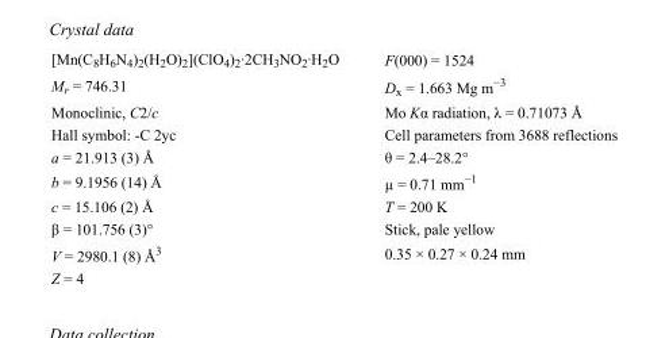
<table><tbody><tr><td>[Mn(C<sub>8</sub>H<sub>6</sub>N<sub>4</sub>)<sub>2</sub>(H<sub>2</sub>O)<sub>2</sub>](ClO<sub>4</sub>)<sub>2</sub>·2CH<sub>3</sub>NO<sub>2</sub>·H<sub>2</sub>O</td><td>F(000) = 1524</td></tr><tr><td>M<sub>r</sub> = 746.31</td><td>D<sub>x</sub> = 1.663 Mg m<sup>−3</sup></td></tr><tr><td>Monoclinic, C2/c</td><td>Mo Kα radiation, λ = 0.71073 Å</td></tr><tr><td>Hall symbol: -C 2yc</td><td>Cell parameters from 3688 reflections</td></tr><tr><td>a = 21.913 (3) Å</td><td>θ = 2.4–28.2°</td></tr><tr><td>b = 9.1956 (14) Å</td><td>µ = 0.71 mm<sup>−1</sup></td></tr><tr><td>c = 15.106 (2) Å</td><td>T = 200 K</td></tr><tr><td>β = 101.756 (3)°</td><td>Stick, pale yellow</td></tr><tr><td>V = 2980.1 (8) Å<sup>3</sup></td><td>0.35 × 0.27 × 0.24 mm</td></tr><tr><td>Z = 4</td><td></td></tr></tbody></table>